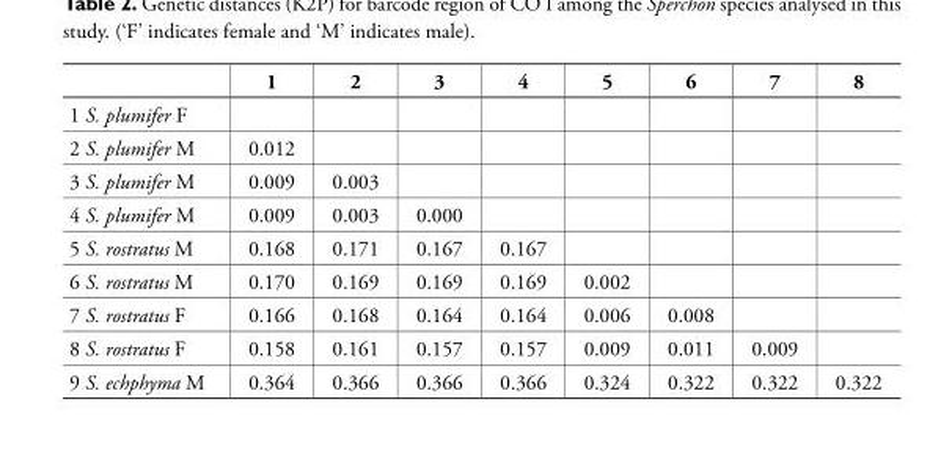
<table><thead><tr><td></td><td>1</td><td>2</td><td>3</td><td>4</td><td>5</td><td>6</td><td>7</td><td>8</td></tr></thead><tbody><tr><td colspan="9">1 S. plumifer F</td></tr><tr><td>2 S. plumifer M</td><td>0.012</td><td></td><td></td><td></td><td></td><td></td><td></td><td></td></tr><tr><td>3 S. plumifer M</td><td>0.009</td><td>0.003</td><td></td><td></td><td></td><td></td><td></td><td></td></tr><tr><td>4 S. plumifer M</td><td>0.009</td><td>0.003</td><td>0.000</td><td></td><td></td><td></td><td></td><td></td></tr><tr><td>5 S. rostratus M</td><td>0.168</td><td>0.171</td><td>0.167</td><td>0.167</td><td></td><td></td><td></td><td></td></tr><tr><td>6 S. rostratus M</td><td>0.170</td><td>0.169</td><td>0.169</td><td>0.169</td><td>0.002</td><td></td><td></td><td></td></tr><tr><td>7 S. rostratus F</td><td>0.166</td><td>0.168</td><td>0.164</td><td>0.164</td><td>0.006</td><td>0.008</td><td></td><td></td></tr><tr><td>8 S. rostratus F</td><td>0.158</td><td>0.161</td><td>0.157</td><td>0.157</td><td>0.009</td><td>0.011</td><td>0.009</td><td></td></tr><tr><td>9 S. echphyma M</td><td>0.364</td><td>0.366</td><td>0.366</td><td>0.366</td><td>0.324</td><td>0.322</td><td>0.322</td><td>0.322</td></tr></tbody></table>